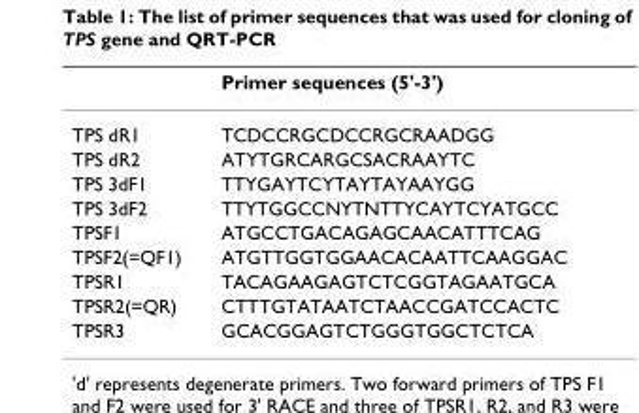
<table><thead><tr><td></td><td>Primer sequences (5&#x27;-3&#x27;)</td></tr></thead><tbody><tr><td>TPS dR1</td><td>TCDCCRGCDCCRGCRAADGG</td></tr><tr><td>TPS dR2</td><td>ATYTGRCARGCSACRAAYTC</td></tr><tr><td>TPS 3dF1</td><td>TTYGAYTCYTAYTAYAAYGG</td></tr><tr><td>TPS 3dF2</td><td>TTYTGGCCNYTNTTYCAYTCYATGCC</td></tr><tr><td>TPSF1</td><td>ATGCCTGACAGAGCAACATTTCAG</td></tr><tr><td>TPSF2(=QF1)</td><td>ATGTTGGTGGAACACAATTCAAGGAC</td></tr><tr><td>TPSR1</td><td>TACAGAAGAGTCTCGGTAGAATGCA</td></tr><tr><td>TPSR2(=QR)</td><td>CTTTGTATAATCTAACCGATCCACTC</td></tr><tr><td>TPSR3</td><td>GCACGGAGTCTGGGTGGCTCTCA</td></tr></tbody></table>